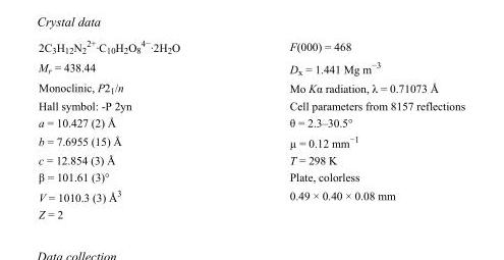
<table><tbody><tr><td>2C<sub>3</sub>H<sub>12</sub>N<sub>2</sub> <sup>2+</sup>·C<sub>10</sub>H<sub>2</sub>O<sub>8</sub> <sup>4−</sup>·2H<sub>2</sub>O</td><td>F(000) = 468</td></tr><tr><td>M<sub>r</sub> = 438.44</td><td>D<sub>x</sub> = 1.441 Mg m<sup>−3</sup></td></tr><tr><td>Monoclinic, P2<sub>1</sub>/n</td><td>Mo Kα radiation, λ = 0.71073 Å</td></tr><tr><td>Hall symbol: -P 2yn</td><td>Cell parameters from 8157 reflections</td></tr><tr><td>a = 10.427 (2) Å</td><td>θ = 2.3–30.5°</td></tr><tr><td>b = 7.6955 (15) Å</td><td>µ = 0.12 mm<sup>−1</sup></td></tr><tr><td>c = 12.854 (3) Å</td><td>T = 298 K</td></tr><tr><td>β = 101.61 (3)°</td><td>Plate, colorless</td></tr><tr><td>V = 1010.3 (3) Å<sup>3</sup></td><td>0.49 × 0.40 × 0.08 mm</td></tr><tr><td>Z = 2</td><td></td></tr></tbody></table>